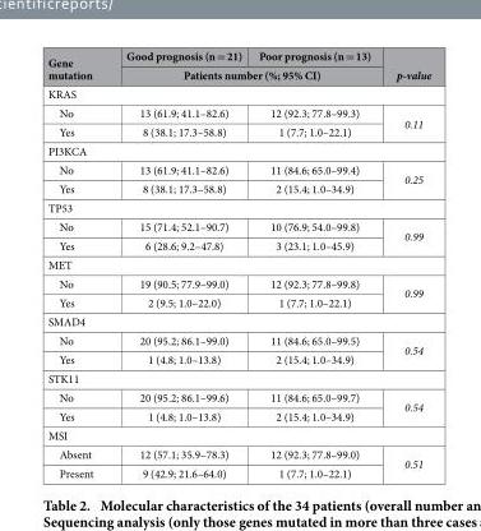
<table><thead><tr><td rowspan="2">Gene mutation</td><td>Good prognosis (n = 21)</td><td>Poor prognosis (n = 13)</td><td rowspan="2">p-value</td></tr><tr><td colspan="2">Patients number (%; 95% CI)</td></tr></thead><tbody><tr><td colspan="4">KRAS</td></tr><tr><td>No</td><td>13 (61.9; 41.1–82.6)</td><td>12 (92.3; 77.8–99.3)</td><td rowspan="2">0.11</td></tr><tr><td>Yes</td><td>8 (38.1; 17.3–58.8)</td><td>1 (7.7; 1.0–22.1)</td></tr><tr><td colspan="4">PI3KCA</td></tr><tr><td>No</td><td>13 (61.9; 41.1–82.6)</td><td>11 (84.6; 65.0–99.4)</td><td rowspan="2">0.25</td></tr><tr><td>Yes</td><td>8 (38.1; 17.3–58.8)</td><td>2 (15.4; 1.0–34.9)</td></tr><tr><td colspan="4">TP53</td></tr><tr><td>No</td><td>15 (71.4; 52.1–90.7)</td><td>10 (76.9; 54.0–99.8)</td><td rowspan="2">0.99</td></tr><tr><td>Yes</td><td>6 (28.6; 9.2–47.8)</td><td>3 (23.1; 1.0–45.9)</td></tr><tr><td colspan="4">MET</td></tr><tr><td>No</td><td>19 (90.5; 77.9–99.0)</td><td>12 (92.3; 77.8–99.8)</td><td rowspan="2">0.99</td></tr><tr><td>Yes</td><td>2 (9.5; 1.0–22.0)</td><td>1 (7.7; 1.0–22.1)</td></tr><tr><td colspan="4">SMAD4</td></tr><tr><td>No</td><td>20 (95.2; 86.1–99.0)</td><td>11 (84.6; 65.0–99.5)</td><td rowspan="2">0.54</td></tr><tr><td>Yes</td><td>1 (4.8; 1.0–13.8)</td><td>2 (15.4; 1.0–34.9)</td></tr><tr><td colspan="4">STK11</td></tr><tr><td>No</td><td>20 (95.2; 86.1–99.6)</td><td>11 (84.6; 65.0–99.7)</td><td rowspan="2">0.54</td></tr><tr><td>Yes</td><td>1 (4.8; 1.0–13.8)</td><td>2 (15.4; 1.0–34.9)</td></tr><tr><td colspan="4">MSI</td></tr><tr><td>Absent</td><td>12 (57.1; 35.9–78.3)</td><td>12 (92.3; 77.8–99.0)</td><td rowspan="2">0.51</td></tr><tr><td>Present</td><td>9 (42.9; 21.6–64.0)</td><td>1 (7.7; 1.0–22.1)</td></tr></tbody></table>